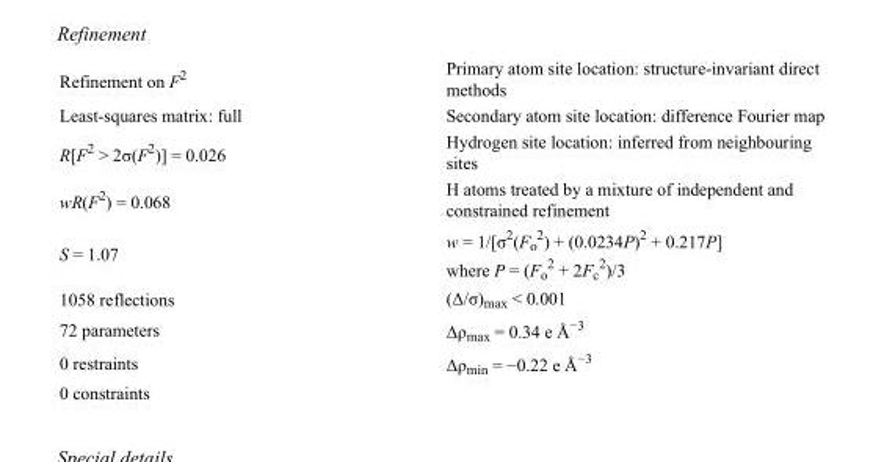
<table><tbody><tr><td>Refinement on F<sup>2</sup></td><td>Primary atom site location: structure-invariant direct methods</td></tr><tr><td>Least-squares matrix: full</td><td>Secondary atom site location: difference Fourier map</td></tr><tr><td>R[F<sup>2</sup> &gt; 2σ(F<sup>2</sup>)] = 0.026</td><td>Hydrogen site location: inferred from neighbouring sites</td></tr><tr><td>wR(F<sup>2</sup>) = 0.068</td><td>H atoms treated by a mixture of independent and constrained refinement</td></tr><tr><td>S = 1.07</td><td>w = 1/[σ<sup>2</sup>(F<sub>o</sub> <sup>2</sup>) + (0.0234P)<sup>2</sup> + 0.217P] where P = (F<sub>o</sub> <sup>2</sup> + 2F<sub>c</sub> <sup>2</sup>)/3</td></tr><tr><td>1058 reflections</td><td>(Δ/σ)<sub>max</sub> &lt; 0.001</td></tr><tr><td>72 parameters</td><td>Δρ<sub>max</sub> = 0.34 e Å<sup>−3</sup></td></tr><tr><td>0 restraints</td><td>Δρ<sub>min</sub> = −0.22 e Å<sup>−3</sup></td></tr><tr><td>0 constraints</td><td></td></tr></tbody></table>